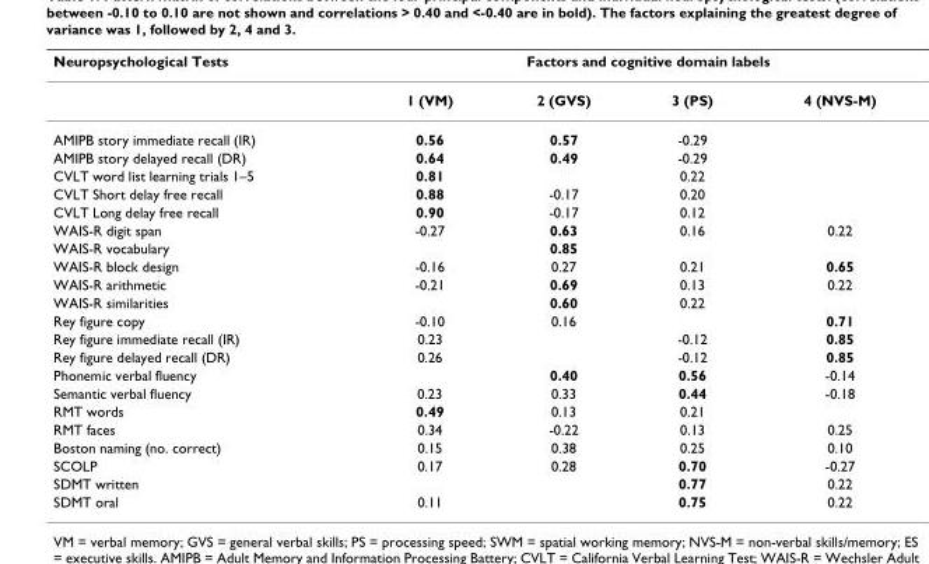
<table><thead><tr><td rowspan="2">Neuropsychological Tests</td><td colspan="4">Factors and cognitive domain labels</td></tr><tr><td>1 (VM)</td><td>2 (GVS)</td><td>3 (PS)</td><td>4 (NVS-M)</td></tr></thead><tbody><tr><td>AMIPB story immediate recall (IR)</td><td>0.56</td><td>0.57</td><td>-0.29</td><td></td></tr><tr><td>AMIPB story delayed recall (DR)</td><td>0.64</td><td>0.49</td><td>-0.29</td><td></td></tr><tr><td>CVLT word list learning trials 1–5</td><td>0.81</td><td></td><td>0.22</td><td></td></tr><tr><td>CVLT Short delay free recall</td><td>0.88</td><td>-0.17</td><td>0.20</td><td></td></tr><tr><td>CVLT Long delay free recall</td><td>0.90</td><td>-0.17</td><td>0.12</td><td></td></tr><tr><td>WAIS-R digit span</td><td>-0.27</td><td>0.63</td><td>0.16</td><td>0.22</td></tr><tr><td>WAIS-R vocabulary</td><td></td><td>0.85</td><td></td><td></td></tr><tr><td>WAIS-R block design</td><td>-0.16</td><td>0.27</td><td>0.21</td><td>0.65</td></tr><tr><td>WAIS-R arithmetic</td><td>-0.21</td><td>0.69</td><td>0.13</td><td>0.22</td></tr><tr><td>WAIS-R similarities</td><td></td><td>0.60</td><td>0.22</td><td></td></tr><tr><td>Rey figure copy</td><td>-0.10</td><td>0.16</td><td></td><td>0.71</td></tr><tr><td>Rey figure immediate recall (IR)</td><td>0.23</td><td></td><td>-0.12</td><td>0.85</td></tr><tr><td>Rey figure delayed recall (DR)</td><td>0.26</td><td></td><td>-0.12</td><td>0.85</td></tr><tr><td>Phonemic verbal fluency</td><td></td><td>0.40</td><td>0.56</td><td>-0.14</td></tr><tr><td>Semantic verbal fluency</td><td>0.23</td><td>0.33</td><td>0.44</td><td>-0.18</td></tr><tr><td>RMT words</td><td>0.49</td><td>0.13</td><td>0.21</td><td></td></tr><tr><td>RMT faces</td><td>0.34</td><td>-0.22</td><td>0.13</td><td>0.25</td></tr><tr><td>Boston naming (no. correct)</td><td>0.15</td><td>0.38</td><td>0.25</td><td>0.10</td></tr><tr><td>SCOLP</td><td>0.17</td><td>0.28</td><td>0.70</td><td>-0.27</td></tr><tr><td>SDMT written</td><td></td><td></td><td>0.77</td><td>0.22</td></tr><tr><td>SDMT oral</td><td>0.11</td><td></td><td>0.75</td><td>0.22</td></tr></tbody></table>